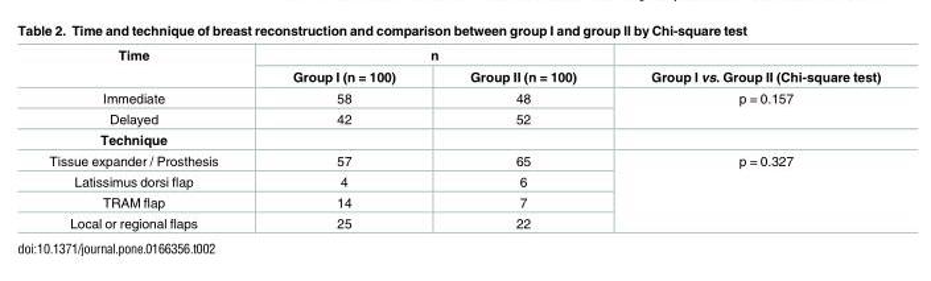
<table><thead><tr><td rowspan="2">Time</td><td colspan="2">n</td><td rowspan="2">Group I vs. Group II (Chi-square test)</td></tr><tr><td>Group I (n = 100)</td><td>Group II (n = 100)</td></tr></thead><tbody><tr><td>Immediate</td><td>58</td><td>48</td><td rowspan="2">p = 0.157</td></tr><tr><td>Delayed</td><td>42</td><td>52</td></tr><tr><td colspan="4">Technique</td></tr><tr><td>Tissue expander / Prosthesis</td><td>57</td><td>65</td><td rowspan="4">p = 0.327</td></tr><tr><td>Latissimus dorsi flap</td><td>4</td><td>6</td></tr><tr><td>TRAM flap</td><td>14</td><td>7</td></tr><tr><td>Local or regional flaps</td><td>25</td><td>22</td></tr></tbody></table>